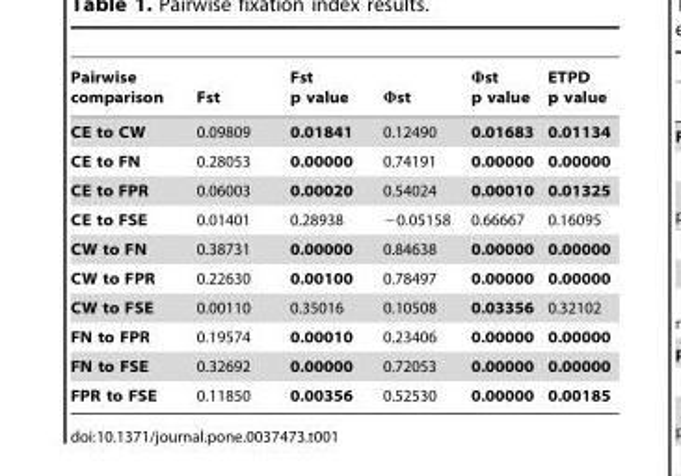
<table><thead><tr><td>Pairwise comparison</td><td>Fst</td><td>Fst p value</td><td>Φst</td><td>Φst p value</td><td>ETPD p value</td></tr></thead><tbody><tr><td>CE to CW</td><td>0.09809</td><td>0.01841</td><td>0.12490</td><td>0.01683</td><td>0.01134</td></tr><tr><td>CE to FN</td><td>0.28053</td><td>0.00000</td><td>0.74191</td><td>0.00000</td><td>0.00000</td></tr><tr><td>CE to FPR</td><td>0.06003</td><td>0.00020</td><td>0.54024</td><td>0.00010</td><td>0.01325</td></tr><tr><td>CE to FSE</td><td>0.01401</td><td>0.28938</td><td>−0.05158</td><td>0.66667</td><td>0.16095</td></tr><tr><td>CW to FN</td><td>0.38731</td><td>0.00000</td><td>0.84638</td><td>0.00000</td><td>0.00000</td></tr><tr><td>CW to FPR</td><td>0.22630</td><td>0.00100</td><td>0.78497</td><td>0.00000</td><td>0.00000</td></tr><tr><td>CW to FSE</td><td>0.00110</td><td>0.35016</td><td>0.10508</td><td>0.03356</td><td>0.32102</td></tr><tr><td>FN to FPR</td><td>0.19574</td><td>0.00010</td><td>0.23406</td><td>0.00000</td><td>0.00000</td></tr><tr><td>FN to FSE</td><td>0.32692</td><td>0.00000</td><td>0.72053</td><td>0.00000</td><td>0.00000</td></tr><tr><td>FPR to FSE</td><td>0.11850</td><td>0.00356</td><td>0.52530</td><td>0.00000</td><td>0.00185</td></tr></tbody></table>